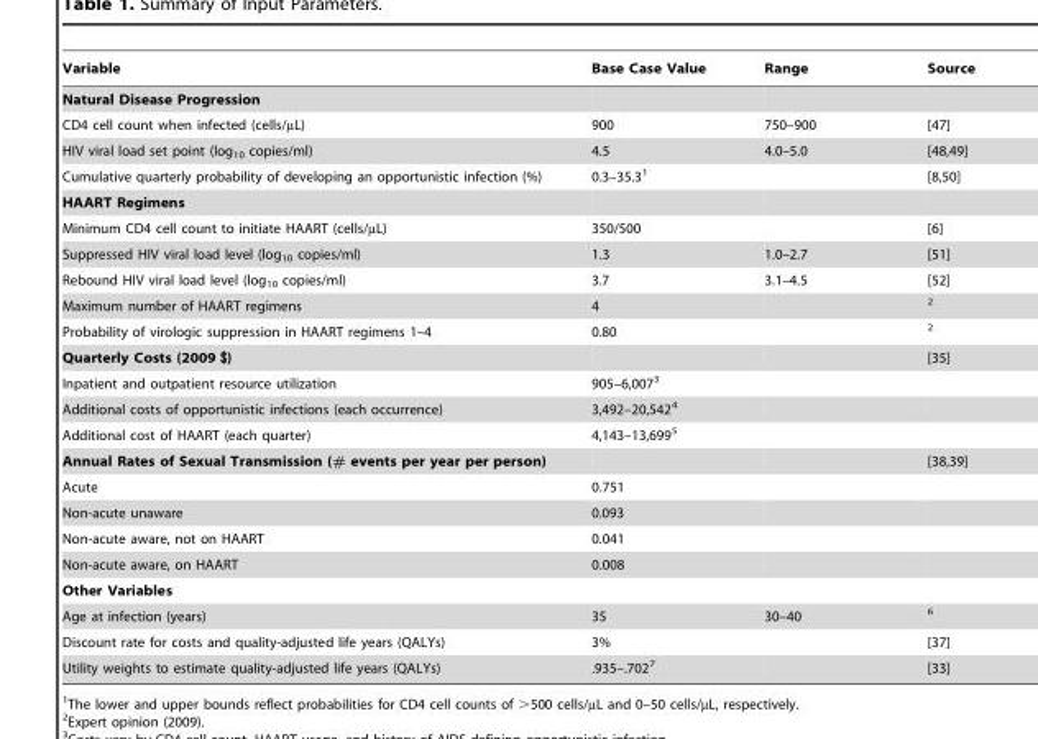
<table><thead><tr><td>Variable</td><td>Base Case Value</td><td>Range</td><td>Source</td></tr></thead><tbody><tr><td colspan="4">Natural Disease Progression</td></tr><tr><td>CD4 cell count when infected (cells/µL)</td><td>900</td><td>750–900</td><td>[47]</td></tr><tr><td>HIV viral load set point (log<sub>10</sub> copies/ml)</td><td>4.5</td><td>4.0–5.0</td><td>[48,49]</td></tr><tr><td>Cumulative quarterly probability of developing an opportunistic infection (%)</td><td>0.3–35.3<sup>1</sup></td><td></td><td>[8,50]</td></tr><tr><td colspan="4">HAART Regimens</td></tr><tr><td>Minimum CD4 cell count to initiate HAART (cells/µL)</td><td>350/500</td><td></td><td>[6]</td></tr><tr><td>Suppressed HIV viral load level (log<sub>10</sub> copies/ml)</td><td>1.3</td><td>1.0–2.7</td><td>[51]</td></tr><tr><td>Rebound HIV viral load level (log<sub>10</sub> copies/ml)</td><td>3.7</td><td>3.1–4.5</td><td>[52]</td></tr><tr><td>Maximum number of HAART regimens</td><td>4</td><td></td><td>2</td></tr><tr><td>Probability of virologic suppression in HAART regimens 1–4</td><td>0.80</td><td></td><td>2</td></tr><tr><td>Quarterly Costs (2009 $)</td><td></td><td></td><td>[35]</td></tr><tr><td>Inpatient and outpatient resource utilization</td><td>905–6,007<sup>3</sup></td><td></td><td></td></tr><tr><td>Additional costs of opportunistic infections (each occurrence)</td><td>3,492–20,542<sup>4</sup></td><td></td><td></td></tr><tr><td>Additional cost of HAART (each quarter)</td><td>4,143–13,699<sup>5</sup></td><td></td><td></td></tr><tr><td>Annual Rates of Sexual Transmission (# events per year per person)</td><td></td><td></td><td>[38,39]</td></tr><tr><td>Acute</td><td>0.751</td><td></td><td></td></tr><tr><td>Non-acute unaware</td><td>0.093</td><td></td><td></td></tr><tr><td>Non-acute aware, not on HAART</td><td>0.041</td><td></td><td></td></tr><tr><td>Non-acute aware, on HAART</td><td>0.008</td><td></td><td></td></tr><tr><td colspan="4">Other Variables</td></tr><tr><td>Age at infection (years)</td><td>35</td><td>30–40</td><td>6</td></tr><tr><td>Discount rate for costs and quality-adjusted life years (QALYs)</td><td>3%</td><td></td><td>[37]</td></tr><tr><td>Utility weights to estimate quality-adjusted life years (QALYs)</td><td>.935–.702<sup>7</sup></td><td></td><td>[33]</td></tr></tbody></table>